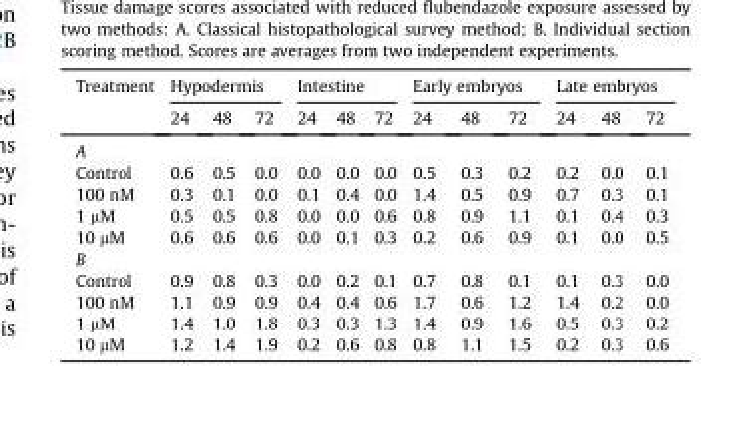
<table><thead><tr><td rowspan="2">Treatment</td><td colspan="3">Hypodermis</td><td colspan="3">Intestine</td><td colspan="3">Early embryos</td><td colspan="3">Late embryos</td></tr><tr><td>24</td><td>48</td><td>72</td><td>24</td><td>48</td><td>72</td><td>24</td><td>48</td><td>72</td><td>24</td><td>48</td><td>72</td></tr></thead><tbody><tr><td colspan="13">A</td></tr><tr><td>Control</td><td>0.6</td><td>0.5</td><td>0.0</td><td>0.0</td><td>0.0</td><td>0.0</td><td>0.5</td><td>0.3</td><td>0.2</td><td>0.2</td><td>0.0</td><td>0.1</td></tr><tr><td>100 nM</td><td>0.3</td><td>0.1</td><td>0.0</td><td>0.1</td><td>0.4</td><td>0.0</td><td>1.4</td><td>0.5</td><td>0.9</td><td>0.7</td><td>0.3</td><td>0.1</td></tr><tr><td>1 μM</td><td>0.5</td><td>0.5</td><td>0.8</td><td>0.0</td><td>0.0</td><td>0.6</td><td>0.8</td><td>0.9</td><td>1.1</td><td>0.1</td><td>0.4</td><td>0.3</td></tr><tr><td>10 μM</td><td>0.6</td><td>0.6</td><td>0.6</td><td>0.0</td><td>0.1</td><td>0.3</td><td>0.2</td><td>0.6</td><td>0.9</td><td>0.1</td><td>0.0</td><td>0.5</td></tr><tr><td colspan="13">B</td></tr><tr><td>Control</td><td>0.9</td><td>0.8</td><td>0.3</td><td>0.0</td><td>0.2</td><td>0.1</td><td>0.7</td><td>0.8</td><td>0.1</td><td>0.1</td><td>0.3</td><td>0.0</td></tr><tr><td>100 nM</td><td>1.1</td><td>0.9</td><td>0.9</td><td>0.4</td><td>0.4</td><td>0.6</td><td>1.7</td><td>0.6</td><td>1.2</td><td>1.4</td><td>0.2</td><td>0.0</td></tr><tr><td>1 μM</td><td>1.4</td><td>1.0</td><td>1.8</td><td>0.3</td><td>0.3</td><td>1.3</td><td>1.4</td><td>0.9</td><td>1.6</td><td>0.5</td><td>0.3</td><td>0.2</td></tr><tr><td>10 μM</td><td>1.2</td><td>1.4</td><td>1.9</td><td>0.2</td><td>0.6</td><td>0.8</td><td>0.8</td><td>1.1</td><td>1.5</td><td>0.2</td><td>0.3</td><td>0.6</td></tr></tbody></table>